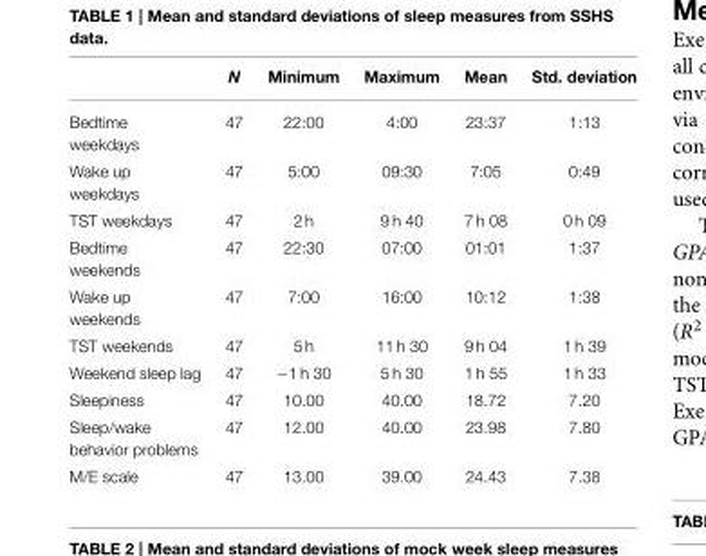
<table><thead><tr><td></td><td>N</td><td>Minimum</td><td>Maximum</td><td>Mean</td><td>Std. deviation</td></tr></thead><tbody><tr><td>Bedtime weekdays</td><td>47</td><td>22:00</td><td>4:00</td><td>23:37</td><td>1:13</td></tr><tr><td>Wake up weekdays</td><td>47</td><td>5:00</td><td>09:30</td><td>7:05</td><td>0:49</td></tr><tr><td>TST weekdays</td><td>47</td><td>2 h</td><td>9 h 40</td><td>7 h 08</td><td>0 h 09</td></tr><tr><td>Bedtime weekends</td><td>47</td><td>22:30</td><td>07:00</td><td>01:01</td><td>1:37</td></tr><tr><td>Wake up weekends</td><td>47</td><td>7:00</td><td>16:00</td><td>10:12</td><td>1:38</td></tr><tr><td>TST weekends</td><td>47</td><td>5 h</td><td>11 h 30</td><td>9 h 04</td><td>1 h 39</td></tr><tr><td>Weekend sleep lag</td><td>47</td><td>−1 h 30</td><td>5 h 30</td><td>1 h 55</td><td>1 h 33</td></tr><tr><td>Sleepiness</td><td>47</td><td>10.00</td><td>40.00</td><td>18.72</td><td>7.20</td></tr><tr><td>Sleep/wake behavior problems</td><td>47</td><td>12.00</td><td>40.00</td><td>23.98</td><td>7.80</td></tr><tr><td>M/E scale</td><td>47</td><td>13.00</td><td>39.00</td><td>24.43</td><td>7.38</td></tr></tbody></table>